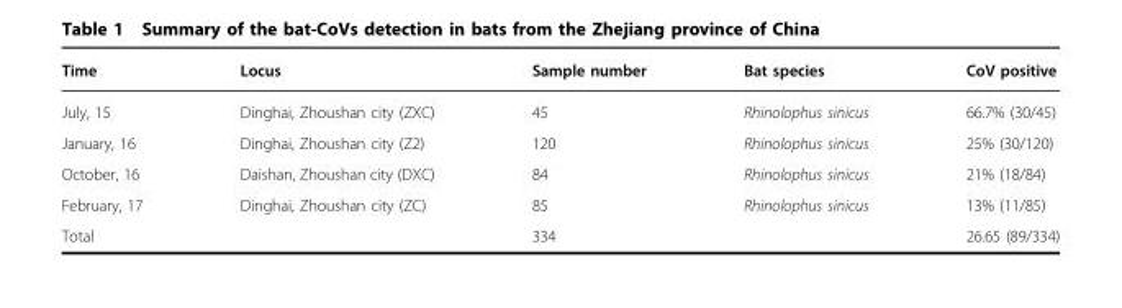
<table><thead><tr><td>Time</td><td>Locus</td><td>Sample number</td><td>Bat species</td><td>CoV positive</td></tr></thead><tbody><tr><td>July, 15</td><td>Dinghai, Zhoushan city (ZXC)</td><td>45</td><td>Rhinolophus sinicus</td><td>66.7% (30/45)</td></tr><tr><td>January, 16</td><td>Dinghai, Zhoushan city (Z2)</td><td>120</td><td>Rhinolophus sinicus</td><td>25% (30/120)</td></tr><tr><td>October, 16</td><td>Daishan, Zhoushan city (DXC)</td><td>84</td><td>Rhinolophus sinicus</td><td>21% (18/84)</td></tr><tr><td>February, 17</td><td>Dinghai, Zhoushan city (ZC)</td><td>85</td><td>Rhinolophus sinicus</td><td>13% (11/85)</td></tr><tr><td>Total</td><td></td><td>334</td><td></td><td>26.65 (89/334)</td></tr></tbody></table>